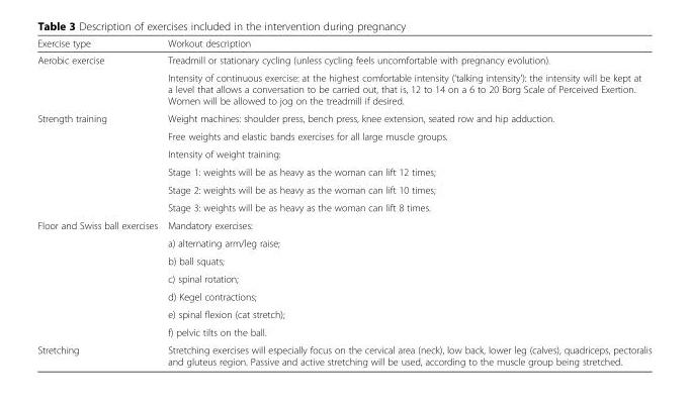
<table><thead><tr><td>Exercise type</td><td>Workout description</td></tr></thead><tbody><tr><td rowspan="2">Aerobic exercise</td><td>Treadmill or stationary cycling (unless cycling feels uncomfortable with pregnancy evolution).</td></tr><tr><td>Intensity of continuous exercise: at the highest comfortable intensity (‘talking intensity’): the intensity will be kept at a level that allows a conversation to be carried out, that is, 12 to 14 on a 6 to 20 Borg Scale of Perceived Exertion. Women will be allowed to jog on the treadmill if desired.</td></tr><tr><td rowspan="6">Strength training</td><td>Weight machines: shoulder press, bench press, knee extension, seated row and hip adduction.</td></tr><tr><td>Free weights and elastic bands exercises for all large muscle groups.</td></tr><tr><td>Intensity of weight training:</td></tr><tr><td>Stage 1: weights will be as heavy as the woman can lift 12 times;</td></tr><tr><td>Stage 2: weights will be as heavy as the woman can lift 10 times;</td></tr><tr><td>Stage 3: weights will be as heavy as the woman can lift 8 times.</td></tr><tr><td rowspan="7">Floor and Swiss ball exercises</td><td>Mandatory exercises:</td></tr><tr><td>a) alternating arm/leg raise;</td></tr><tr><td>b) ball squats;</td></tr><tr><td>c) spinal rotation;</td></tr><tr><td>d) Kegel contractions;</td></tr><tr><td>e) spinal flexion (cat stretch);</td></tr><tr><td>f) pelvic tilts on the ball.</td></tr><tr><td>Stretching</td><td>Stretching exercises will especially focus on the cervical area (neck), low back, lower leg (calves), quadriceps, pectoralis and gluteus region. Passive and active stretching will be used, according to the muscle group being stretched.</td></tr></tbody></table>